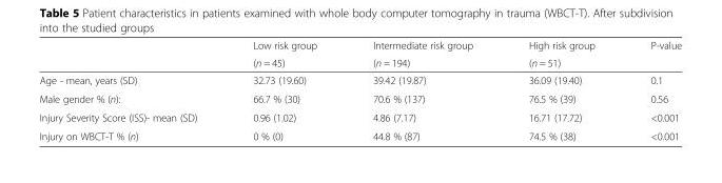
<table><thead><tr><td rowspan="2"></td><td rowspan="2">Low risk group (n = 45)</td><td rowspan="2">Intermediate risk group (n = 194)</td><td rowspan="2">High risk group (n = 51)</td><td rowspan="2">P-value</td></tr><tr></tr></thead><tbody><tr><td>Age - mean, years (SD)</td><td>32.73 (19.60)</td><td>39.42 (19.87)</td><td>36.09 (19.40)</td><td>0.1</td></tr><tr><td>Male gender % (n):</td><td>66.7 % (30)</td><td>70.6 % (137)</td><td>76.5 % (39)</td><td>0.56</td></tr><tr><td>Injury Severity Score (ISS)- mean (SD)</td><td>0.96 (1.02)</td><td>4.86 (7.17)</td><td>16.71 (17.72)</td><td>&lt;0.001</td></tr><tr><td>Injury on WBCT-T % (n)</td><td>0 % (0)</td><td>44.8 % (87)</td><td>74.5 % (38)</td><td>&lt;0.001</td></tr></tbody></table>